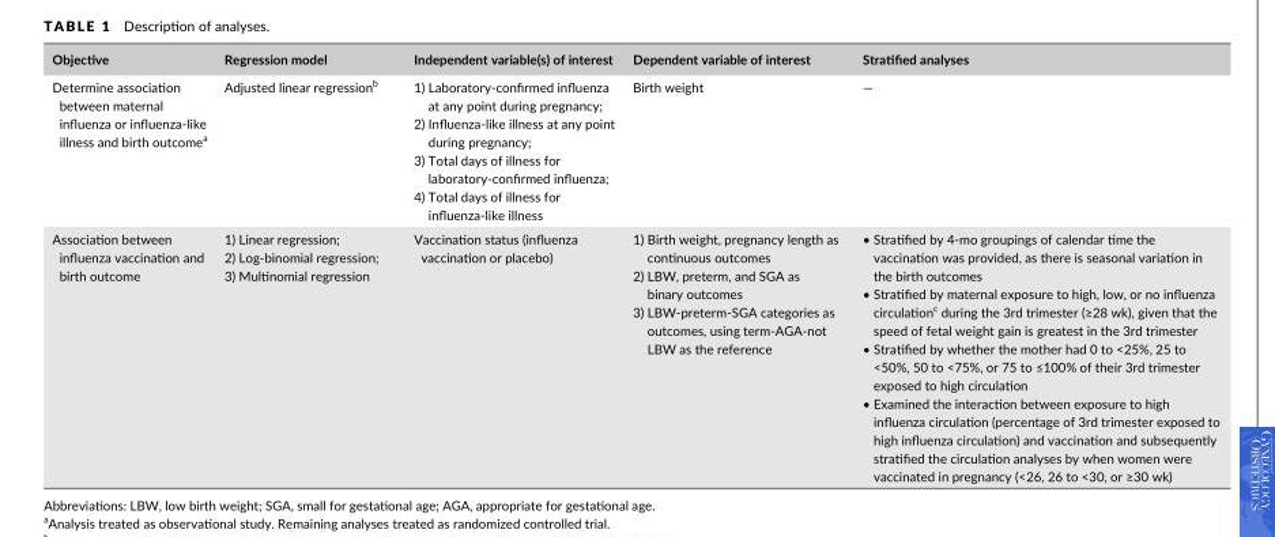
<table><thead><tr><td>Objective</td><td>Regression model</td><td>Independent variable(s) of interest</td><td>Dependent variable of interest</td><td>Stratified analyses</td></tr></thead><tbody><tr><td>Determine association between maternal influenza or influenza-like illness and birth outcome<sup>a</sup></td><td>Adjusted linear regression<sup>b</sup></td><td>1) Laboratory- confirmed influenza at any point during pregnancy; 2) Influenza- like illness at any point during pregnancy; 3) Total days of illness for laboratory- confirmed influenza; 4) Total days of illness for influenza- like illness</td><td>Birth weight</td><td>—</td></tr><tr><td>Association between influenza vaccination and birth outcome</td><td>1) Linear regression; 2) Log- binomial regression; 3) Multinomial regression</td><td>Vaccination status (influenza vaccination or placebo)</td><td>1) Birth weight, pregnancy length as continuous outcomes 2) LBW, preterm, and SGA as binary outcomes 3) LBW- preterm- SGA categories as outcomes, using term- AGA- not LBW as the reference</td><td>• Stratified by 4- mo groupings of calendar time the vaccination was provided, as there is seasonal variation in the birth outcomes • Stratified by maternal exposure to high, low, or no influenza circulation<sup>c</sup> during the 3rd trimester (≥28 wk), given that the speed of fetal weight gain is greatest in the 3rd trimester • Stratified by whether the mother had 0 to &lt;25%, 25 to &lt;50%, 50 to &lt;75%, or 75 to ≤100% of their 3rd trimester exposed to high circulation • Examined the interaction between exposure to high influenza circulation (percentage of 3rd trimester exposed to high influenza circulation) and vaccination and subsequently stratified the circulation analyses by when women were vaccinated in pregnancy (&lt;26, 26 to &lt;30, or ≥30 wk)</td></tr></tbody></table>